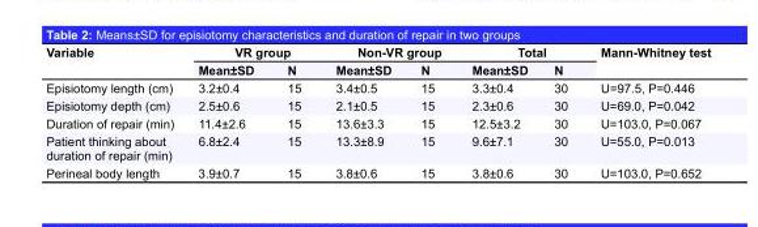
<table><thead><tr><td rowspan="2">Variable</td><td colspan="2">VR group</td><td colspan="2">Non-VR group</td><td colspan="2">Total</td><td rowspan="2">Mann-Whitney test</td></tr><tr><td>Mean±SD</td><td>N</td><td>Mean±SD</td><td>N</td><td>Mean±SD</td><td>N</td></tr></thead><tbody><tr><td>Episiotomy length (cm)</td><td>3.2±0.4</td><td>15</td><td>3.4±0.5</td><td>15</td><td>3.3±0.4</td><td>30</td><td>U=97.5, P=0.446</td></tr><tr><td>Episiotomy depth (cm)</td><td>2.5±0.6</td><td>15</td><td>2.1±0.5</td><td>15</td><td>2.3±0.6</td><td>30</td><td>U=69.0, P=0.042</td></tr><tr><td>Duration of repair (min)</td><td>11.4±2.6</td><td>15</td><td>13.6±3.3</td><td>15</td><td>12.5±3.2</td><td>30</td><td>U=103.0, P=0.067</td></tr><tr><td>Patient thinking about duration of repair (min)</td><td>6.8±2.4</td><td>15</td><td>13.3±8.9</td><td>15</td><td>9.6±7.1</td><td>30</td><td>U=55.0, P=0.013</td></tr><tr><td>Perineal body length</td><td>3.9±0.7</td><td>15</td><td>3.8±0.6</td><td>15</td><td>3.8±0.6</td><td>30</td><td>U=103.0, P=0.652</td></tr></tbody></table>